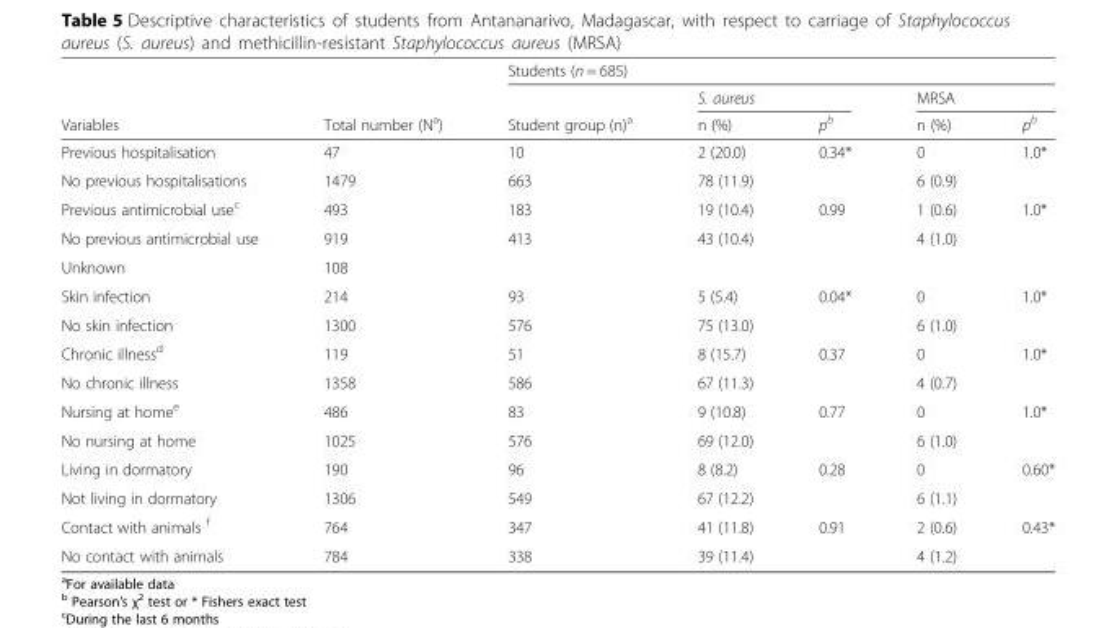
<table><thead><tr><td rowspan="3">Variables</td><td rowspan="3">Total number (N<sup>a</sup>)</td><td colspan="5">Students (n = 685)</td></tr><tr><td rowspan="2">Student group (n)<sup>a</sup></td><td colspan="2">S. aureus</td><td colspan="2">MRSA</td></tr><tr><td>n (%)</td><td>p<sup>b</sup></td><td>n (%)</td><td>p<sup>b</sup></td></tr></thead><tbody><tr><td>Previous hospitalisation</td><td>47</td><td>10</td><td>2 (20.0)</td><td>0.34*</td><td>0</td><td>1.0*</td></tr><tr><td>No previous hospitalisations</td><td>1479</td><td>663</td><td>78 (11.9)</td><td></td><td>6 (0.9)</td><td></td></tr><tr><td>Previous antimicrobial use<sup>c</sup></td><td>493</td><td>183</td><td>19 (10.4)</td><td>0.99</td><td>1 (0.6)</td><td>1.0*</td></tr><tr><td>No previous antimicrobial use</td><td>919</td><td>413</td><td>43 (10.4)</td><td></td><td>4 (1.0)</td><td></td></tr><tr><td>Unknown</td><td>108</td><td></td><td></td><td></td><td></td><td></td></tr><tr><td>Skin infection</td><td>214</td><td>93</td><td>5 (5.4)</td><td>0.04*</td><td>0</td><td>1.0*</td></tr><tr><td>No skin infection</td><td>1300</td><td>576</td><td>75 (13.0)</td><td></td><td>6 (1.0)</td><td></td></tr><tr><td>Chronic illness<sup>d</sup></td><td>119</td><td>51</td><td>8 (15.7)</td><td>0.37</td><td>0</td><td>1.0*</td></tr><tr><td>No chronic illness</td><td>1358</td><td>586</td><td>67 (11.3)</td><td></td><td>4 (0.7)</td><td></td></tr><tr><td>Nursing at home<sup>e</sup></td><td>486</td><td>83</td><td>9 (10.8)</td><td>0.77</td><td>0</td><td>1.0*</td></tr><tr><td>No nursing at home</td><td>1025</td><td>576</td><td>69 (12.0)</td><td></td><td>6 (1.0)</td><td></td></tr><tr><td>Living in dormatory</td><td>190</td><td>96</td><td>8 (8.2)</td><td>0.28</td><td>0</td><td>0.60*</td></tr><tr><td>Not living in dormatory</td><td>1306</td><td>549</td><td>67 (12.2)</td><td></td><td>6 (1.1)</td><td></td></tr><tr><td>Contact with animals <sup>f</sup></td><td>764</td><td>347</td><td>41 (11.8)</td><td>0.91</td><td>2 (0.6)</td><td>0.43*</td></tr><tr><td>No contact with animals</td><td>784</td><td>338</td><td>39 (11.4)</td><td></td><td>4 (1.2)</td><td></td></tr></tbody></table>